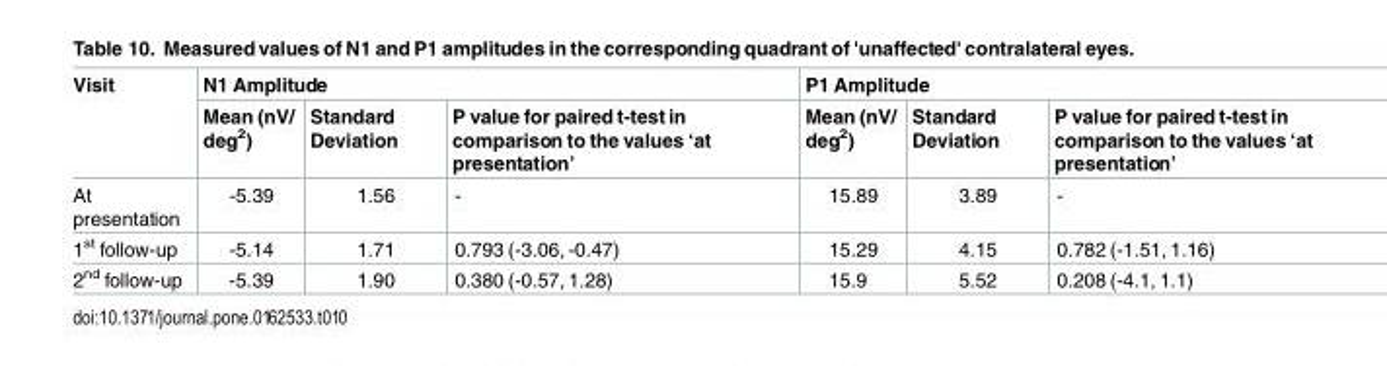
<table><thead><tr><td rowspan="2">Visit</td><td colspan="3">N1 Amplitude</td><td colspan="3">P1 Amplitude</td></tr><tr><td>Mean (nV/ deg<sup>2</sup>)</td><td>Standard Deviation</td><td>P value for paired t-test in comparison to the values ‘at presentation’</td><td>Mean (nV/ deg<sup>2</sup>)</td><td>Standard Deviation</td><td>P value for paired t-test in comparison to the values ‘at presentation’</td></tr></thead><tbody><tr><td>At presentation</td><td>-5.39</td><td>1.56</td><td>-</td><td>15.89</td><td>3.89</td><td>-</td></tr><tr><td>1<sup>st</sup> follow-up</td><td>-5.14</td><td>1.71</td><td>0.793 (-3.06, -0.47)</td><td>15.29</td><td>4.15</td><td>0.782 (-1.51, 1.16)</td></tr><tr><td>2<sup>nd</sup> follow-up</td><td>-5.39</td><td>1.90</td><td>0.380 (-0.57, 1.28)</td><td>15.9</td><td>5.52</td><td>0.208 (-4.1, 1.1)</td></tr></tbody></table>